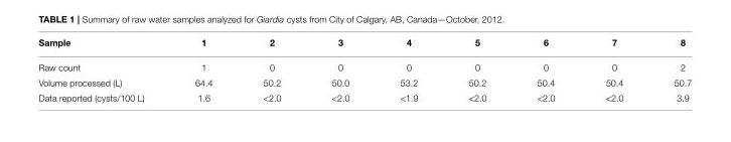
<table><thead><tr><td>Sample</td><td>1</td><td>2</td><td>3</td><td>4</td><td>5</td><td>6</td><td>7</td><td>8</td></tr></thead><tbody><tr><td>Raw count</td><td>1</td><td>0</td><td>0</td><td>0</td><td>0</td><td>0</td><td>0</td><td>2</td></tr><tr><td>Volume processed (L)</td><td>64.4</td><td>50.2</td><td>50.0</td><td>53.2</td><td>50.2</td><td>50.4</td><td>50.4</td><td>50.7</td></tr><tr><td>Data reported (cysts/100 L)</td><td>1.6</td><td>&lt;2.0</td><td>&lt;2.0</td><td>&lt;1.9</td><td>&lt;2.0</td><td>&lt;2.0</td><td>&lt;2.0</td><td>3.9</td></tr></tbody></table>